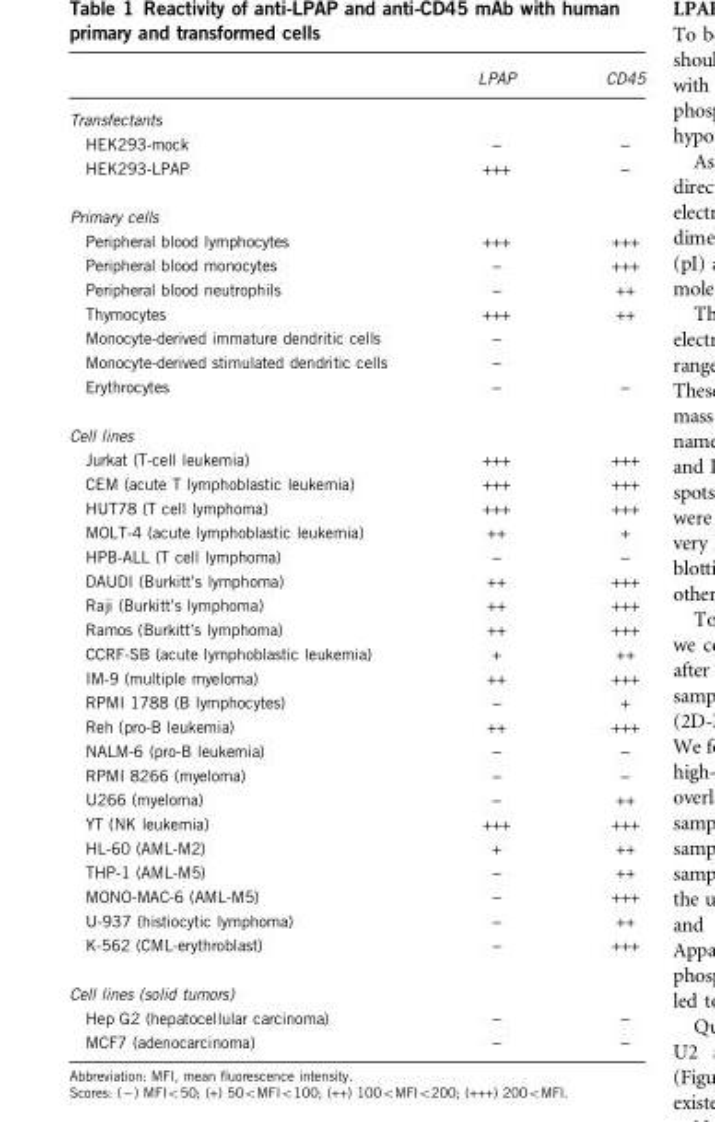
<table><thead><tr><td></td><td>LPAP</td><td>CD45</td></tr></thead><tbody><tr><td colspan="3">Transfectants</td></tr><tr><td>HEK293-mock</td><td>−</td><td>−</td></tr><tr><td>HEK293-LPAP</td><td>+++</td><td>−</td></tr><tr><td colspan="3">Primary cells</td></tr><tr><td>Peripheral blood lymphocytes</td><td>+++</td><td>+++</td></tr><tr><td>Peripheral blood monocytes</td><td>−</td><td>+++</td></tr><tr><td>Peripheral blood neutrophils</td><td>−</td><td>++</td></tr><tr><td>Thymocytes</td><td>+++</td><td>++</td></tr><tr><td>Monocyte-derived immature dendritic cells</td><td>−</td><td></td></tr><tr><td>Monocyte-derived stimulated dendritic cells</td><td>−</td><td></td></tr><tr><td>Erythrocytes</td><td>−</td><td>−</td></tr><tr><td colspan="3">Cell lines</td></tr><tr><td>Jurkat (T-cell leukemia)</td><td>+++</td><td>+++</td></tr><tr><td>CEM (acute T lymphoblastic leukemia)</td><td>+++</td><td>+++</td></tr><tr><td>HUT78 (T cell lymphoma)</td><td>+++</td><td>+++</td></tr><tr><td>MOLT-4 (acute lymphoblastic leukemia)</td><td>++</td><td>+</td></tr><tr><td>HPB-ALL (T cell lymphoma)</td><td>−</td><td>−</td></tr><tr><td>DAUDI (Burkitt’s lymphoma)</td><td>++</td><td>+++</td></tr><tr><td>Raji (Burkitt’s lymphoma)</td><td>++</td><td>+++</td></tr><tr><td>Ramos (Burkitt’s lymphoma)</td><td>++</td><td>+++</td></tr><tr><td>CCRF-SB (acute lymphoblastic leukemia)</td><td>+</td><td>++</td></tr><tr><td>IM-9 (multiple myeloma)</td><td>++</td><td>+++</td></tr><tr><td>RPMI 1788 (B lymphocytes)</td><td>−</td><td>+</td></tr><tr><td>Reh (pro-B leukemia)</td><td>++</td><td>+++</td></tr><tr><td>NALM-6 (pro-B leukemia)</td><td>−</td><td>−</td></tr><tr><td>RPMI 8266 (myeloma)</td><td>−</td><td>−</td></tr><tr><td>U266 (myeloma)</td><td>−</td><td>++</td></tr><tr><td>YT (NK leukemia)</td><td>+++</td><td>+++</td></tr><tr><td>HL-60 (AML-M2)</td><td>+</td><td>++</td></tr><tr><td>THP-1 (AML-M5)</td><td>−</td><td>++</td></tr><tr><td>MONO-MAC-6 (AML-M5)</td><td>−</td><td>+++</td></tr><tr><td>U-937 (histiocytic lymphoma)</td><td>−</td><td>++</td></tr><tr><td>K-562 (CML-erythroblast)</td><td>−</td><td>+++</td></tr><tr><td colspan="3">Cell lines (solid tumors)</td></tr><tr><td>Hep G2 (hepatocellular carcinoma)</td><td>−</td><td>−</td></tr><tr><td>MCF7 (adenocarcinoma)</td><td>−</td><td>−</td></tr></tbody></table>